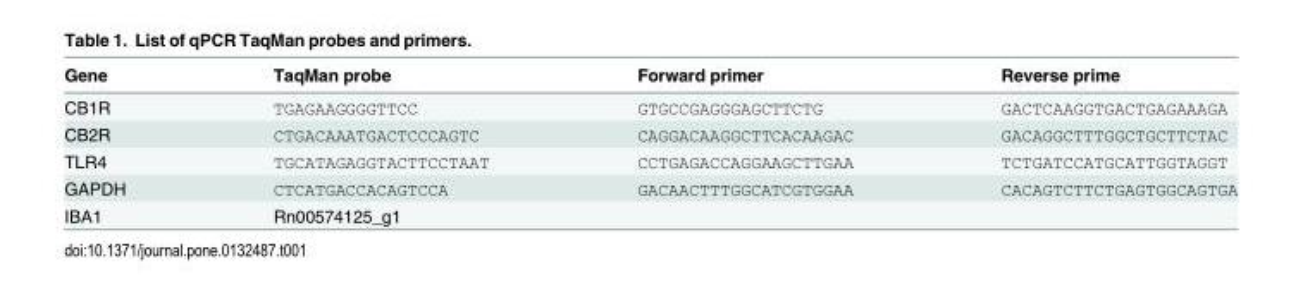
<table><thead><tr><td>Gene</td><td>TaqMan probe</td><td>Forward primer</td><td>Reverse prime</td></tr></thead><tbody><tr><td>CB1R</td><td>TGAGAAGGGGTTCC</td><td>GTGCCGAGGGAGCTTCTG</td><td>GACTCAAGGTGACTGAGAAAGA</td></tr><tr><td>CB2R</td><td>CTGACAAATGACTCCCAGTC</td><td>CAGGACAAGGCTTCACAAGAC</td><td>GACAGGCTTTGGCTGCTTCTAC</td></tr><tr><td>TLR4</td><td>TGCATAGAGGTACTTCCTAAT</td><td>CCTGAGACCAGGAAGCTTGAA</td><td>TCTGATCCATGCATTGGTAGGT</td></tr><tr><td>GAPDH</td><td>CTCATGACCACAGTCCA</td><td>GACAACTTTGGCATCGTGGAA</td><td>CACAGTCTTCTGAGTGGCAGTGA</td></tr><tr><td>IBA1</td><td>Rn00574125_g1</td><td></td><td></td></tr></tbody></table>